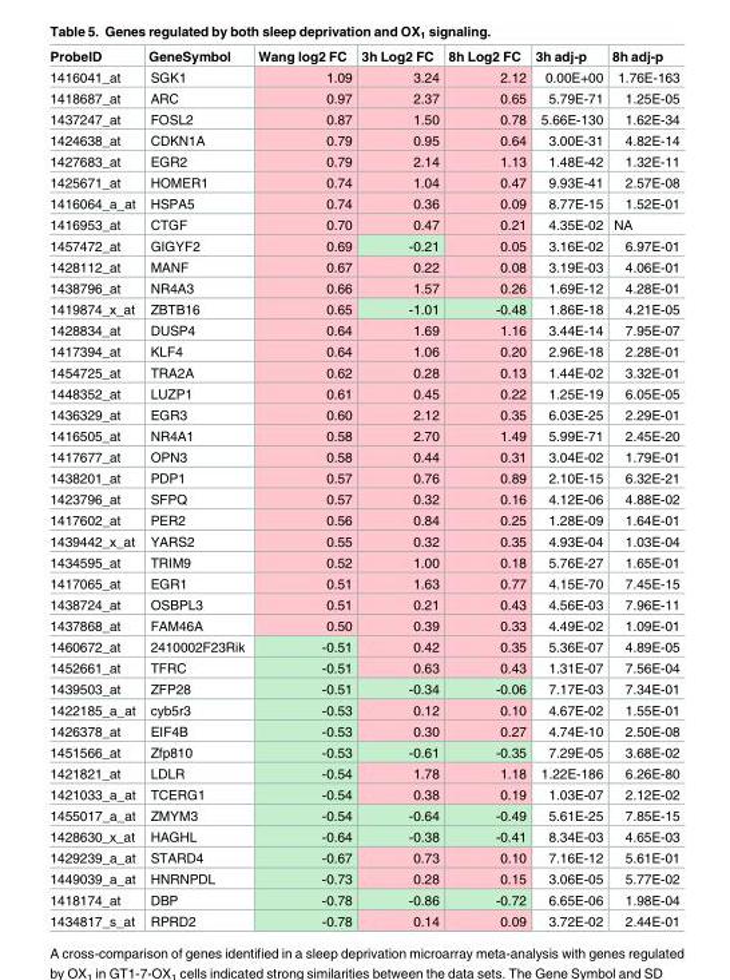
<table><thead><tr><td>ProbeID</td><td>GeneSymbol</td><td>Wang log2 FC</td><td>3h Log2 FC</td><td>8h Log2 FC</td><td>3h adj-p</td><td>8h adj-p</td></tr></thead><tbody><tr><td>1416041_at</td><td>SGK1</td><td>1.09</td><td>3.24</td><td>2.12</td><td>0.00E+00</td><td>1.76E-163</td></tr><tr><td>1418687_at</td><td>ARC</td><td>0.97</td><td>2.37</td><td>0.65</td><td>5.79E-71</td><td>1.25E-05</td></tr><tr><td>1437247_at</td><td>FOSL2</td><td>0.87</td><td>1.50</td><td>0.78</td><td>5.66E-130</td><td>1.62E-34</td></tr><tr><td>1424638_at</td><td>CDKN1A</td><td>0.79</td><td>0.95</td><td>0.64</td><td>3.00E-31</td><td>4.82E-14</td></tr><tr><td>1427683_at</td><td>EGR2</td><td>0.79</td><td>2.14</td><td>1.13</td><td>1.48E-42</td><td>1.32E-11</td></tr><tr><td>1425671_at</td><td>HOMER1</td><td>0.74</td><td>1.04</td><td>0.47</td><td>9.93E-41</td><td>2.57E-08</td></tr><tr><td>1416064_a_at</td><td>HSPA5</td><td>0.74</td><td>0.36</td><td>0.09</td><td>8.77E-15</td><td>1.52E-01</td></tr><tr><td>1416953_at</td><td>CTGF</td><td>0.70</td><td>0.47</td><td>0.21</td><td>4.35E-02</td><td>NA</td></tr><tr><td>1457472_at</td><td>GIGYF2</td><td>0.69</td><td>-0.21</td><td>0.05</td><td>3.16E-02</td><td>6.97E-01</td></tr><tr><td>1428112_at</td><td>MANF</td><td>0.67</td><td>0.22</td><td>0.08</td><td>3.19E-03</td><td>4.06E-01</td></tr><tr><td>1438796_at</td><td>NR4A3</td><td>0.66</td><td>1.57</td><td>0.26</td><td>1.69E-12</td><td>4.28E-01</td></tr><tr><td>1419874_x_at</td><td>ZBTB16</td><td>0.65</td><td>-1.01</td><td>-0.48</td><td>1.86E-18</td><td>4.21E-05</td></tr><tr><td>1428834_at</td><td>DUSP4</td><td>0.64</td><td>1.69</td><td>1.16</td><td>3.44E-14</td><td>7.95E-07</td></tr><tr><td>1417394_at</td><td>KLF4</td><td>0.64</td><td>1.06</td><td>0.20</td><td>2.96E-18</td><td>2.28E-01</td></tr><tr><td>1454725_at</td><td>TRA2A</td><td>0.62</td><td>0.28</td><td>0.13</td><td>1.44E-02</td><td>3.32E-01</td></tr><tr><td>1448352_at</td><td>LUZP1</td><td>0.61</td><td>0.45</td><td>0.22</td><td>1.25E-19</td><td>6.05E-05</td></tr><tr><td>1436329_at</td><td>EGR3</td><td>0.60</td><td>2.12</td><td>0.35</td><td>6.03E-25</td><td>2.29E-01</td></tr><tr><td>1416505_at</td><td>NR4A1</td><td>0.58</td><td>2.70</td><td>1.49</td><td>5.99E-71</td><td>2.45E-20</td></tr><tr><td>1417677_at</td><td>OPN3</td><td>0.58</td><td>0.44</td><td>0.31</td><td>3.04E-02</td><td>1.79E-01</td></tr><tr><td>1438201_at</td><td>PDP1</td><td>0.57</td><td>0.76</td><td>0.89</td><td>2.10E-15</td><td>6.32E-21</td></tr><tr><td>1423796_at</td><td>SFPQ</td><td>0.57</td><td>0.32</td><td>0.16</td><td>4.12E-06</td><td>4.88E-02</td></tr><tr><td>1417602_at</td><td>PER2</td><td>0.56</td><td>0.84</td><td>0.25</td><td>1.28E-09</td><td>1.64E-01</td></tr><tr><td>1439442_x_at</td><td>YARS2</td><td>0.55</td><td>0.32</td><td>0.35</td><td>4.93E-04</td><td>1.03E-04</td></tr><tr><td>1434595_at</td><td>TRIM9</td><td>0.52</td><td>1.00</td><td>0.18</td><td>5.76E-27</td><td>1.65E-01</td></tr><tr><td>1417065_at</td><td>EGR1</td><td>0.51</td><td>1.63</td><td>0.77</td><td>4.15E-70</td><td>7.45E-15</td></tr><tr><td>1438724_at</td><td>OSBPL3</td><td>0.51</td><td>0.21</td><td>0.43</td><td>4.56E-03</td><td>7.96E-11</td></tr><tr><td>1437868_at</td><td>FAM46A</td><td>0.50</td><td>0.39</td><td>0.33</td><td>4.49E-02</td><td>1.09E-01</td></tr><tr><td>1460672_at</td><td>2410002F23Rik</td><td>-0.51</td><td>0.42</td><td>0.35</td><td>5.36E-07</td><td>4.89E-05</td></tr><tr><td>1452661_at</td><td>TFRC</td><td>-0.51</td><td>0.63</td><td>0.43</td><td>1.31E-07</td><td>7.56E-04</td></tr><tr><td>1439503_at</td><td>ZFP28</td><td>-0.51</td><td>-0.34</td><td>-0.06</td><td>7.17E-03</td><td>7.34E-01</td></tr><tr><td>1422185_a_at</td><td>cyb5r3</td><td>-0.53</td><td>0.12</td><td>0.10</td><td>4.67E-02</td><td>1.55E-01</td></tr><tr><td>1426378_at</td><td>EIF4B</td><td>-0.53</td><td>0.30</td><td>0.27</td><td>4.74E-10</td><td>2.50E-08</td></tr><tr><td>1451566_at</td><td>Zfp810</td><td>-0.53</td><td>-0.61</td><td>-0.35</td><td>7.29E-05</td><td>3.68E-02</td></tr><tr><td>1421821_at</td><td>LDLR</td><td>-0.54</td><td>1.78</td><td>1.18</td><td>1.22E-186</td><td>6.26E-80</td></tr><tr><td>1421033_a_at</td><td>TCERG1</td><td>-0.54</td><td>0.38</td><td>0.19</td><td>1.03E-07</td><td>2.12E-02</td></tr><tr><td>1455017_a_at</td><td>ZMYM3</td><td>-0.54</td><td>-0.64</td><td>-0.49</td><td>5.61E-25</td><td>7.85E-15</td></tr><tr><td>1428630_x_at</td><td>HAGHL</td><td>-0.64</td><td>-0.38</td><td>-0.41</td><td>8.34E-03</td><td>4.65E-03</td></tr><tr><td>1429239_a_at</td><td>STARD4</td><td>-0.67</td><td>0.73</td><td>0.10</td><td>7.16E-12</td><td>5.61E-01</td></tr><tr><td>1449039_a_at</td><td>HNRNPDL</td><td>-0.73</td><td>0.28</td><td>0.15</td><td>3.06E-05</td><td>5.77E-02</td></tr><tr><td>1418174_at</td><td>DBP</td><td>-0.78</td><td>-0.86</td><td>-0.72</td><td>6.65E-06</td><td>1.98E-04</td></tr><tr><td>1434817_s_at</td><td>RPRD2</td><td>-0.78</td><td>0.14</td><td>0.09</td><td>3.72E-02</td><td>2.44E-01</td></tr></tbody></table>